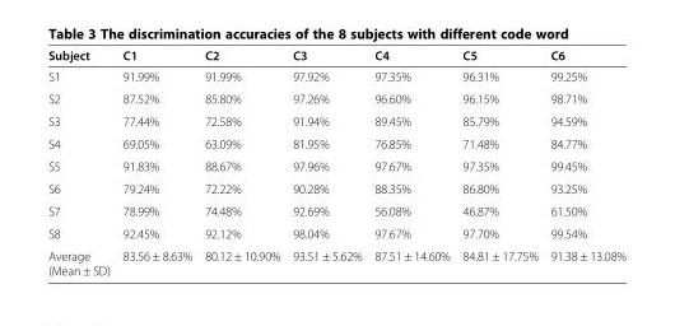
<table><thead><tr><td>Subject</td><td>C1</td><td>C2</td><td>C3</td><td>C4</td><td>C5</td><td>C6</td></tr></thead><tbody><tr><td>S1</td><td>91.99%</td><td>91.99%</td><td>97.92%</td><td>97.35%</td><td>96.31%</td><td>99.25%</td></tr><tr><td>S2</td><td>87.52%</td><td>85.80%</td><td>97.26%</td><td>96.60%</td><td>96.15%</td><td>98.71%</td></tr><tr><td>S3</td><td>77.44%</td><td>72.58%</td><td>91.94%</td><td>89.45%</td><td>85.79%</td><td>94.59%</td></tr><tr><td>S4</td><td>69.05%</td><td>63.09%</td><td>81.95%</td><td>76.85%</td><td>71.48%</td><td>84.77%</td></tr><tr><td>S5</td><td>91.83%</td><td>88.67%</td><td>97.96%</td><td>97.67%</td><td>97.35%</td><td>99.45%</td></tr><tr><td>S6</td><td>79.24%</td><td>72.22%</td><td>90.28%</td><td>88.35%</td><td>86.80%</td><td>93.25%</td></tr><tr><td>S7</td><td>78.99%</td><td>74.48%</td><td>92.69%</td><td>56.08%</td><td>46.87%</td><td>61.50%</td></tr><tr><td>S8</td><td>92.45%</td><td>92.12%</td><td>98.04%</td><td>97.67%</td><td>97.70%</td><td>99.54%</td></tr><tr><td>Average (Mean ± SD)</td><td>83.56 ± 8.63%</td><td>80.12 ± 10.90%</td><td>93.51 ± 5.62%</td><td>87.51 ± 14.60%</td><td>84.81 ± 17.75%</td><td>91.38 ± 13.08%</td></tr></tbody></table>